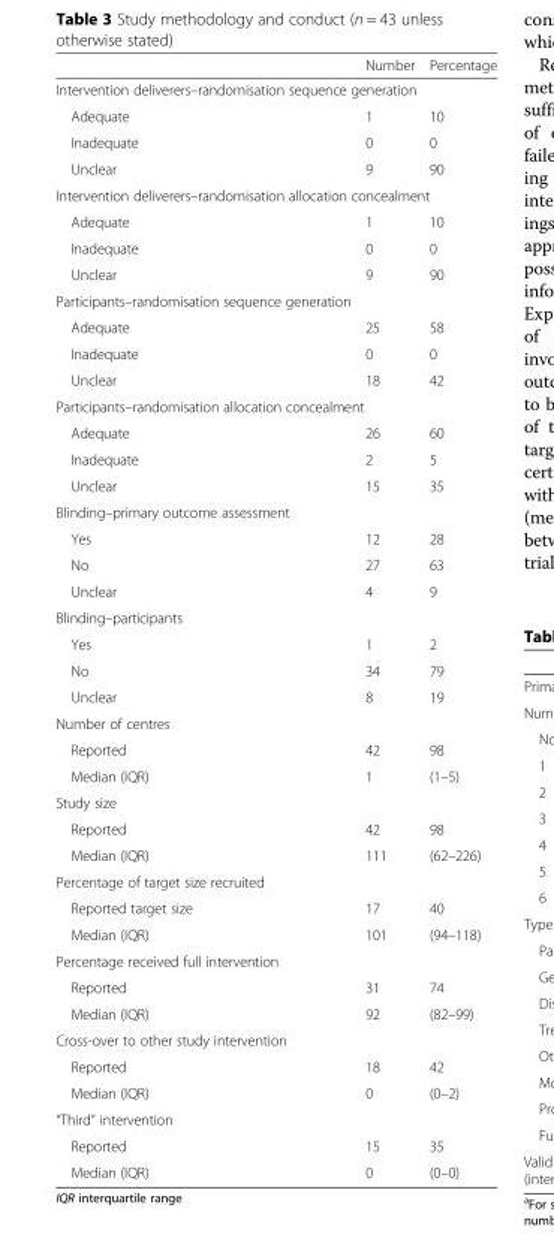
<table><thead><tr><td></td><td>Number</td><td>Percentage</td></tr></thead><tbody><tr><td colspan="3">Intervention deliverers–randomisation sequence generation</td></tr><tr><td>Adequate</td><td>1</td><td>10</td></tr><tr><td>Inadequate</td><td>0</td><td>0</td></tr><tr><td>Unclear</td><td>9</td><td>90</td></tr><tr><td colspan="3">Intervention deliverers–randomisation allocation concealment</td></tr><tr><td>Adequate</td><td>1</td><td>10</td></tr><tr><td>Inadequate</td><td>0</td><td>0</td></tr><tr><td>Unclear</td><td>9</td><td>90</td></tr><tr><td colspan="3">Participants–randomisation sequence generation</td></tr><tr><td>Adequate</td><td>25</td><td>58</td></tr><tr><td>Inadequate</td><td>0</td><td>0</td></tr><tr><td>Unclear</td><td>18</td><td>42</td></tr><tr><td colspan="3">Participants–randomisation allocation concealment</td></tr><tr><td>Adequate</td><td>26</td><td>60</td></tr><tr><td>Inadequate</td><td>2</td><td>5</td></tr><tr><td>Unclear</td><td>15</td><td>35</td></tr><tr><td colspan="3">Blinding–primary outcome assessment</td></tr><tr><td>Yes</td><td>12</td><td>28</td></tr><tr><td>No</td><td>27</td><td>63</td></tr><tr><td>Unclear</td><td>4</td><td>9</td></tr><tr><td colspan="3">Blinding–participants</td></tr><tr><td>Yes</td><td>1</td><td>2</td></tr><tr><td>No</td><td>34</td><td>79</td></tr><tr><td>Unclear</td><td>8</td><td>19</td></tr><tr><td colspan="3">Number of centres</td></tr><tr><td>Reported</td><td>42</td><td>98</td></tr><tr><td>Median (IQR)</td><td>1</td><td>(1–5)</td></tr><tr><td colspan="3">Study size</td></tr><tr><td>Reported</td><td>42</td><td>98</td></tr><tr><td>Median (IQR)</td><td>111</td><td>(62–226)</td></tr><tr><td colspan="3">Percentage of target size recruited</td></tr><tr><td>Reported target size</td><td>17</td><td>40</td></tr><tr><td>Median (IQR)</td><td>101</td><td>(94–118)</td></tr><tr><td colspan="3">Percentage received full intervention</td></tr><tr><td>Reported</td><td>31</td><td>74</td></tr><tr><td>Median (IQR)</td><td>92</td><td>(82–99)</td></tr><tr><td colspan="3">Cross-over to other study intervention</td></tr><tr><td>Reported</td><td>18</td><td>42</td></tr><tr><td>Median (IQR)</td><td>0</td><td>(0–2)</td></tr><tr><td colspan="3">“Third” intervention</td></tr><tr><td>Reported</td><td>15</td><td>35</td></tr><tr><td>Median (IQR)</td><td>0</td><td>(0–0)</td></tr></tbody></table>